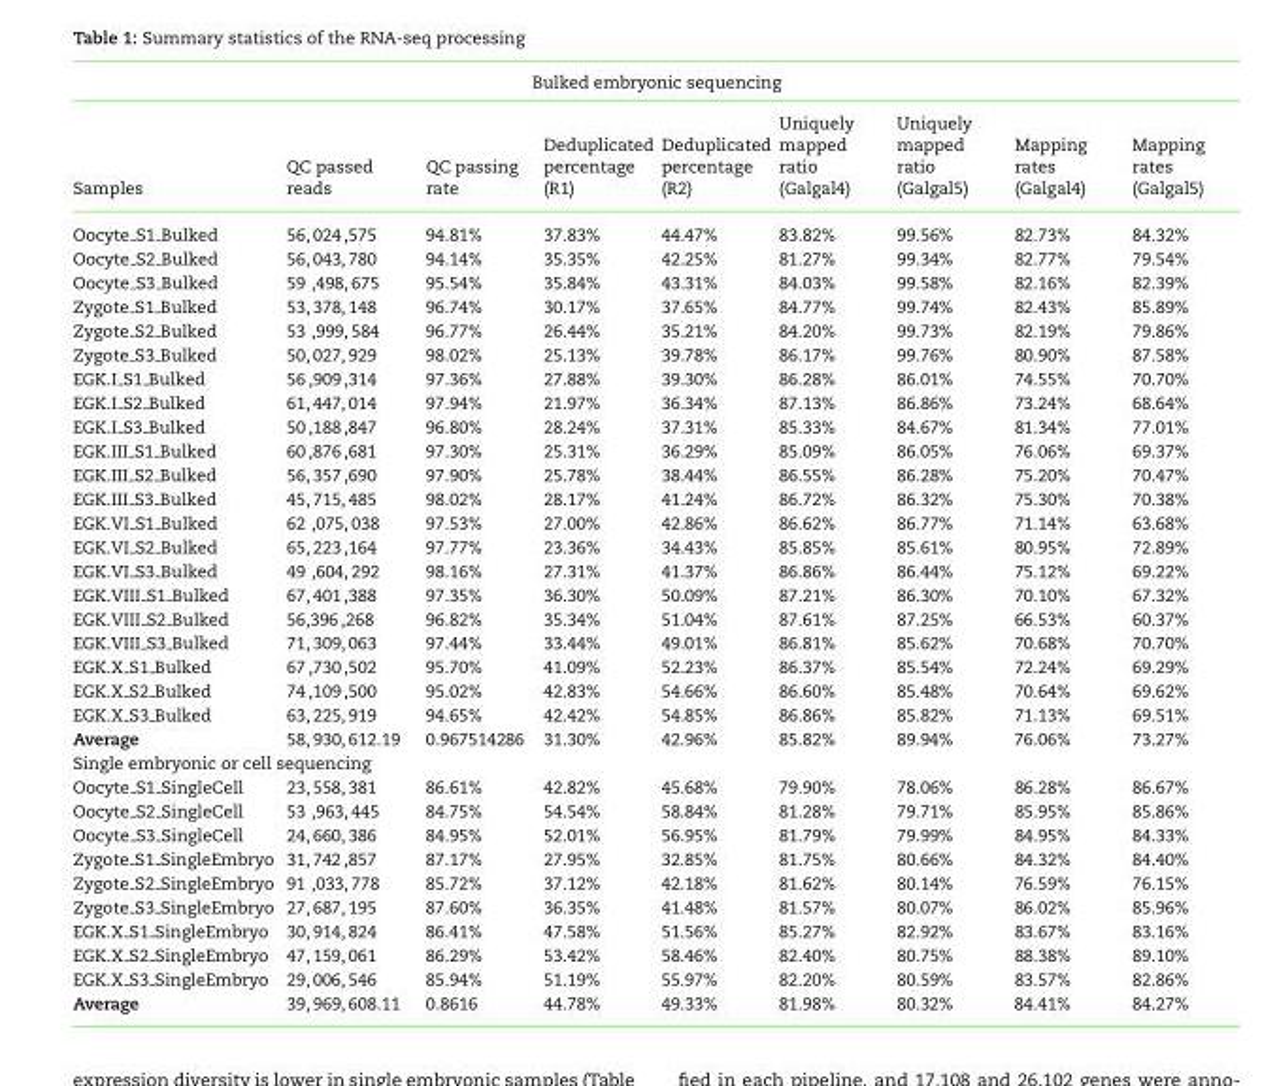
<table><thead><tr><td colspan="9">Bulked embryonic sequencing</td></tr><tr><td>Samples</td><td>QC passed reads</td><td>QC passing rate</td><td>Deduplicated percentage (R1)</td><td>Deduplicated percentage (R2)</td><td>Uniquely mapped ratio (Galgal4)</td><td>Uniquely mapped ratio (Galgal5)</td><td>Mapping rates (Galgal4)</td><td>Mapping rates (Galgal5)</td></tr></thead><tbody><tr><td>Oocyte <sub>S1</sub> Bulked</td><td>56, 024 ,575</td><td>94.81%</td><td>37.83%</td><td>44.47%</td><td>83.82%</td><td>99.56%</td><td>82.73%</td><td>84.32%</td></tr><tr><td>Oocyte <sub>S2</sub> Bulked</td><td>56, 043, 780</td><td>94.14%</td><td>35.35%</td><td>42.25%</td><td>81.27%</td><td>99.34%</td><td>82.77%</td><td>79.54%</td></tr><tr><td>Oocyte <sub>S3</sub> Bulked</td><td>59 ,498, 675</td><td>95.54%</td><td>35.84%</td><td>43.31%</td><td>84.03%</td><td>99.58%</td><td>82.16%</td><td>82.39%</td></tr><tr><td>Zygote <sub>S1</sub> Bulked</td><td>53, 378, 148</td><td>96.74%</td><td>30.17%</td><td>37.65%</td><td>84.77%</td><td>99.74%</td><td>82.43%</td><td>85.89%</td></tr><tr><td>Zygote <sub>S2</sub> Bulked</td><td>53 ,999, 584</td><td>96.77%</td><td>26.44%</td><td>35.21%</td><td>84.20%</td><td>99.73%</td><td>82.19%</td><td>79.86%</td></tr><tr><td>Zygote <sub>S3</sub> Bulked</td><td>50, 027, 929</td><td>98.02%</td><td>25.13%</td><td>39.78%</td><td>86.17%</td><td>99.76%</td><td>80.90%</td><td>87.58%</td></tr><tr><td>EGK.I <sub>S1</sub> Bulked</td><td>56 ,909 ,314</td><td>97.36%</td><td>27.88%</td><td>39.30%</td><td>86.28%</td><td>86.01%</td><td>74.55%</td><td>70.70%</td></tr><tr><td>EGK.I <sub>S2</sub> Bulked</td><td>61, 447, 014</td><td>97.94%</td><td>21.97%</td><td>36.34%</td><td>87.13%</td><td>86.86%</td><td>73.24%</td><td>68.64%</td></tr><tr><td>EGK.I <sub>S3</sub> Bulked</td><td>50 ,188 ,847</td><td>96.80%</td><td>28.24%</td><td>37.31%</td><td>85.33%</td><td>84.67%</td><td>81.34%</td><td>77.01%</td></tr><tr><td>EGK.III <sub>S1</sub> Bulked</td><td>60 ,876 ,681</td><td>97.30%</td><td>25.31%</td><td>36.29%</td><td>85.09%</td><td>86.05%</td><td>76.06%</td><td>69.37%</td></tr><tr><td>EGK.III <sub>S2</sub> Bulked</td><td>56, 357 ,690</td><td>97.90%</td><td>25.78%</td><td>38.44%</td><td>86.55%</td><td>86.28%</td><td>75.20%</td><td>70.47%</td></tr><tr><td>EGK.III <sub>S3</sub> Bulked</td><td>45, 715, 485</td><td>98.02%</td><td>28.17%</td><td>41.24%</td><td>86.72%</td><td>86.32%</td><td>75.30%</td><td>70.38%</td></tr><tr><td>EGK.VI <sub>S1</sub> Bulked</td><td>62 ,075, 038</td><td>97.53%</td><td>27.00%</td><td>42.86%</td><td>86.62%</td><td>86.77%</td><td>71.14%</td><td>63.68%</td></tr><tr><td>EGK.VI <sub>S2</sub> Bulked</td><td>65, 223 ,164</td><td>97.77%</td><td>23.36%</td><td>34.43%</td><td>85.85%</td><td>85.61%</td><td>80.95%</td><td>72.89%</td></tr><tr><td>EGK.VI <sub>S3</sub> Bulked</td><td>49 ,604, 292</td><td>98.16%</td><td>27.31%</td><td>41.37%</td><td>86.86%</td><td>86.44%</td><td>75.12%</td><td>69.22%</td></tr><tr><td>EGK.VIII <sub>S1</sub> Bulked</td><td>67, 401 ,388</td><td>97.35%</td><td>36.30%</td><td>50.09%</td><td>87.21%</td><td>86.30%</td><td>70.10%</td><td>67.32%</td></tr><tr><td>EGK.VIII <sub>S2</sub> Bulked</td><td>56,396 ,268</td><td>96.82%</td><td>35.34%</td><td>51.04%</td><td>87.61%</td><td>87.25%</td><td>66.53%</td><td>60.37%</td></tr><tr><td>EGK.VIII <sub>S3</sub> Bulked</td><td>71, 309, 063</td><td>97.44%</td><td>33.44%</td><td>49.01%</td><td>86.81%</td><td>85.62%</td><td>70.68%</td><td>70.70%</td></tr><tr><td>EGK.X <sub>S1</sub> Bulked</td><td>67 ,730 ,502</td><td>95.70%</td><td>41.09%</td><td>52.23%</td><td>86.37%</td><td>85.54%</td><td>72.24%</td><td>69.29%</td></tr><tr><td>EGK.X <sub>S2</sub> Bulked</td><td>74 ,109 ,500</td><td>95.02%</td><td>42.83%</td><td>54.66%</td><td>86.60%</td><td>85.48%</td><td>70.64%</td><td>69.62%</td></tr><tr><td>EGK.X <sub>S3</sub> Bulked</td><td>63, 225, 919</td><td>94.65%</td><td>42.42%</td><td>54.85%</td><td>86.86%</td><td>85.82%</td><td>71.13%</td><td>69.51%</td></tr><tr><td>Average</td><td>58, 930, 612.19</td><td>0.967514286</td><td>31.30%</td><td>42.96%</td><td>85.82%</td><td>89.94%</td><td>76.06%</td><td>73.27%</td></tr><tr><td colspan="9">Single embryonic or cell sequencing</td></tr><tr><td>Oocyte <sub>S1</sub> SingleCell</td><td>23, 558, 381</td><td>86.61%</td><td>42.82%</td><td>45.68%</td><td>79.90%</td><td>78.06%</td><td>86.28%</td><td>86.67%</td></tr><tr><td>Oocyte <sub>S2</sub> SingleCell</td><td>53 ,963, 445</td><td>84.75%</td><td>54.54%</td><td>58.84%</td><td>81.28%</td><td>79.71%</td><td>85.95%</td><td>85.86%</td></tr><tr><td>Oocyte <sub>S3</sub> SingleCell</td><td>24, 660, 386</td><td>84.95%</td><td>52.01%</td><td>56.95%</td><td>81.79%</td><td>79.99%</td><td>84.95%</td><td>84.33%</td></tr><tr><td>Zygote <sub>S1</sub> SingleEmbryo</td><td>31, 742 ,857</td><td>87.17%</td><td>27.95%</td><td>32.85%</td><td>81.75%</td><td>80.66%</td><td>84.32%</td><td>84.40%</td></tr><tr><td>Zygote <sub>S2</sub> SingleEmbryo</td><td>91 ,033, 778</td><td>85.72%</td><td>37.12%</td><td>42.18%</td><td>81.62%</td><td>80.14%</td><td>76.59%</td><td>76.15%</td></tr><tr><td>Zygote <sub>S3</sub> SingleEmbryo</td><td>27, 687, 195</td><td>87.60%</td><td>36.35%</td><td>41.48%</td><td>81.57%</td><td>80.07%</td><td>86.02%</td><td>85.96%</td></tr><tr><td>EGK.X <sub>S1</sub> SingleEmbryo</td><td>30, 914, 824</td><td>86.41%</td><td>47.58%</td><td>51.56%</td><td>85.27%</td><td>82.92%</td><td>83.67%</td><td>83.16%</td></tr><tr><td>EGK.X <sub>S2</sub> SingleEmbryo</td><td>47, 159, 061</td><td>86.29%</td><td>53.42%</td><td>58.46%</td><td>82.40%</td><td>80.75%</td><td>88.38%</td><td>89.10%</td></tr><tr><td>EGK.X <sub>S3</sub> SingleEmbryo</td><td>29, 006, 546</td><td>85.94%</td><td>51.19%</td><td>55.97%</td><td>82.20%</td><td>80.59%</td><td>83.57%</td><td>82.86%</td></tr><tr><td>Average</td><td>39, 969, 608.11</td><td>0.8616</td><td>44.78%</td><td>49.33%</td><td>81.98%</td><td>80.32%</td><td>84.41%</td><td>84.27%</td></tr></tbody></table>